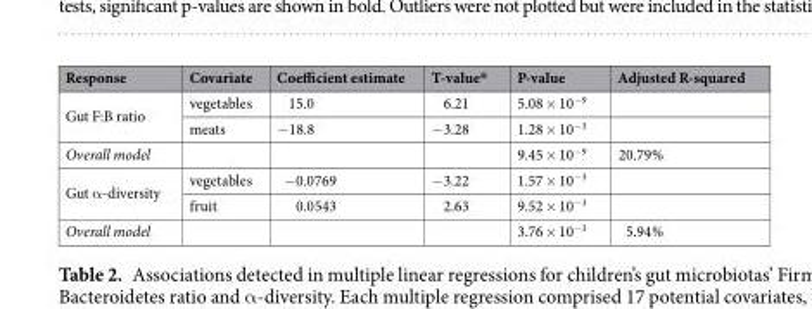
<table><thead><tr><td>Response</td><td>Covariate</td><td>Coefficient estimate</td><td>T-value*</td><td>P-value</td><td>Adjusted R-squared</td></tr></thead><tbody><tr><td rowspan="2">Gut F:B ratio</td><td>vegetables</td><td>15.0</td><td>6.21</td><td>5.08 × 10<sup>−9</sup></td><td></td></tr><tr><td>meats</td><td>−18.8</td><td>−3.28</td><td>1.28 × 10<sup>−3</sup></td><td></td></tr><tr><td>Overall model</td><td></td><td></td><td></td><td>9.45 × 10<sup>−9</sup></td><td>20.79%</td></tr><tr><td rowspan="2">Gut α-diversity</td><td>vegetables</td><td>−0.0769</td><td>−3.22</td><td>1.57 × 10<sup>−3</sup></td><td></td></tr><tr><td>fruit</td><td>0.0543</td><td>2.63</td><td>9.52 × 10<sup>−3</sup></td><td></td></tr><tr><td>Overall model</td><td></td><td></td><td></td><td>3.76 × 10<sup>−3</sup></td><td>5.94%</td></tr></tbody></table>